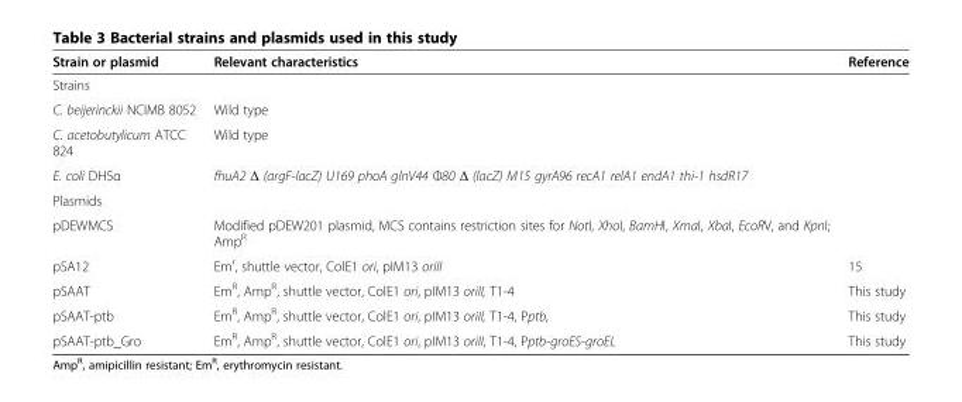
<table><thead><tr><td>Strain or plasmid</td><td>Relevant characteristics</td><td>Reference</td></tr></thead><tbody><tr><td colspan="3">Strains</td></tr><tr><td>C. beijerinckii NCIMB 8052</td><td>Wild type</td><td></td></tr><tr><td>C. acetobutylicum ATCC 824</td><td>Wild type</td><td></td></tr><tr><td>E. coli DH5α</td><td>fhuA2 Δ (argF-lacZ) U169 phoA glnV44 Φ80 Δ (lacZ) M15 gyrA96 recA1 relA1 endA1 thi-1 hsdR17</td><td></td></tr><tr><td colspan="3">Plasmids</td></tr><tr><td>pDEWMCS</td><td>Modified pDEW201 plasmid, MCS contains restriction sites for NotI, XhoI, BamHI, XmaI, XbaI, EcoRV, and KpnI; Amp<sup>R</sup></td><td></td></tr><tr><td>pSA12</td><td>Em<sup>r</sup>, shuttle vector, ColE1 ori, pIM13 oriII</td><td>15</td></tr><tr><td>pSAAT</td><td>Em<sup>R</sup>, Amp<sup>R</sup>, shuttle vector, ColE1 ori, pIM13 oriII, T1-4</td><td>This study</td></tr><tr><td>pSAAT-ptb</td><td>Em<sup>R</sup>, Amp<sup>R</sup>, shuttle vector, ColE1 ori, pIM13 oriII, T1-4, Pptb,</td><td>This study</td></tr><tr><td>pSAAT-ptb_Gro</td><td>Em<sup>R</sup>, Amp<sup>R</sup>, shuttle vector, ColE1 ori, pIM13 oriII, T1-4, Pptb-groES-groEL</td><td>This study</td></tr></tbody></table>